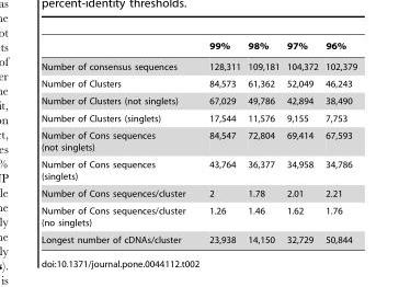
<table><thead><tr><td></td><td>99%</td><td>98%</td><td>97%</td><td>96%</td></tr></thead><tbody><tr><td>Number of consensus sequences</td><td>128,311</td><td>109,181</td><td>104,372</td><td>102,379</td></tr><tr><td>Number of Clusters</td><td>84,573</td><td>61,362</td><td>52,049</td><td>46,243</td></tr><tr><td>Number of Clusters (not singlets)</td><td>67,029</td><td>49,786</td><td>42,894</td><td>38,490</td></tr><tr><td>Number of Clusters (singlets)</td><td>17,544</td><td>11,576</td><td>9,155</td><td>7,753</td></tr><tr><td>Number of Cons sequences (not singlets)</td><td>84,547</td><td>72,804</td><td>69,414</td><td>67,593</td></tr><tr><td>Number of Cons sequences (singlets)</td><td>43,764</td><td>36,377</td><td>34,958</td><td>34,786</td></tr><tr><td>Number of Cons sequences/cluster</td><td>2</td><td>1.78</td><td>2.01</td><td>2.21</td></tr><tr><td>Number of Cons sequences/cluster (no singlets)</td><td>1.26</td><td>1.46</td><td>1.62</td><td>1.76</td></tr><tr><td>Longest number of cDNAs/cluster</td><td>23,938</td><td>14,150</td><td>32,729</td><td>50,844</td></tr></tbody></table>